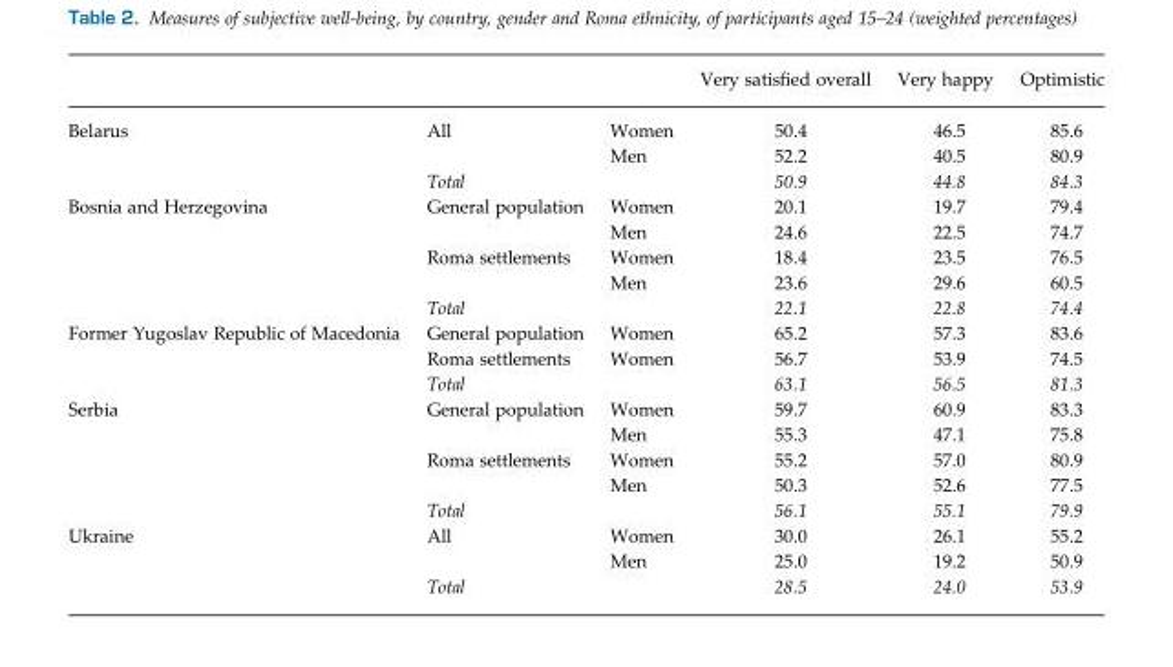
<table><thead><tr><td></td><td></td><td></td><td>Very satisfied overall</td><td>Very happy</td><td>Optimistic</td></tr></thead><tbody><tr><td rowspan="3">Belarus</td><td rowspan="2">All</td><td>Women</td><td>50.4</td><td>46.5</td><td>85.6</td></tr><tr><td>Men</td><td>52.2</td><td>40.5</td><td>80.9</td></tr><tr><td colspan="2">Total</td><td>50.9</td><td>44.8</td><td>84.3</td></tr><tr><td rowspan="5">Bosnia and Herzegovina</td><td rowspan="2">General population</td><td>Women</td><td>20.1</td><td>19.7</td><td>79.4</td></tr><tr><td>Men</td><td>24.6</td><td>22.5</td><td>74.7</td></tr><tr><td rowspan="2">Roma settlements</td><td>Women</td><td>18.4</td><td>23.5</td><td>76.5</td></tr><tr><td>Men</td><td>23.6</td><td>29.6</td><td>60.5</td></tr><tr><td colspan="2">Total</td><td>22.1</td><td>22.8</td><td>74.4</td></tr><tr><td rowspan="3">Former Yugoslav Republic of Macedonia</td><td>General population</td><td>Women</td><td>65.2</td><td>57.3</td><td>83.6</td></tr><tr><td>Roma settlements</td><td>Women</td><td>56.7</td><td>53.9</td><td>74.5</td></tr><tr><td colspan="2">Total</td><td>63.1</td><td>56.5</td><td>81.3</td></tr><tr><td rowspan="5">Serbia</td><td rowspan="2">General population</td><td>Women</td><td>59.7</td><td>60.9</td><td>83.3</td></tr><tr><td>Men</td><td>55.3</td><td>47.1</td><td>75.8</td></tr><tr><td rowspan="2">Roma settlements</td><td>Women</td><td>55.2</td><td>57.0</td><td>80.9</td></tr><tr><td>Men</td><td>50.3</td><td>52.6</td><td>77.5</td></tr><tr><td colspan="2">Total</td><td>56.1</td><td>55.1</td><td>79.9</td></tr><tr><td rowspan="3">Ukraine</td><td rowspan="2">All</td><td>Women</td><td>30.0</td><td>26.1</td><td>55.2</td></tr><tr><td>Men</td><td>25.0</td><td>19.2</td><td>50.9</td></tr><tr><td colspan="2">Total</td><td>28.5</td><td>24.0</td><td>53.9</td></tr></tbody></table>